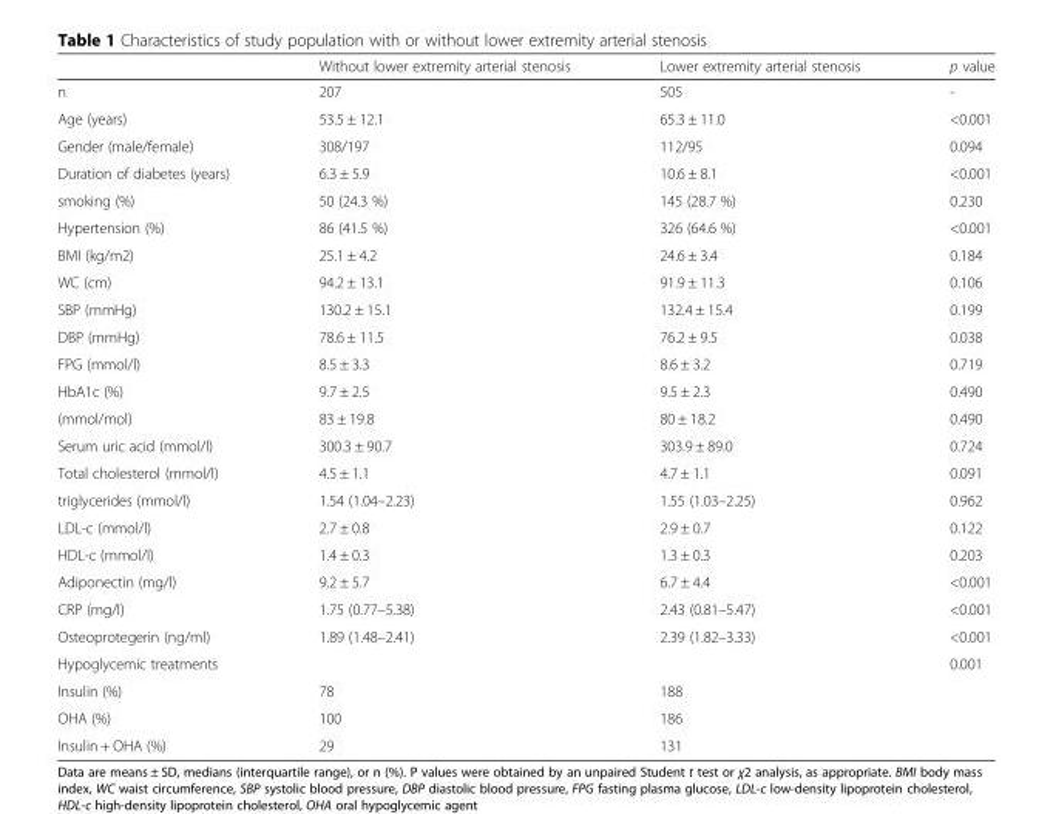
<table><thead><tr><td></td><td>Without lower extremity arterial stenosis</td><td>Lower extremity arterial stenosis</td><td>p value</td></tr></thead><tbody><tr><td>n</td><td>207</td><td>505</td><td>-</td></tr><tr><td>Age (years)</td><td>53.5 ± 12.1</td><td>65.3 ± 11.0</td><td>&lt;0.001</td></tr><tr><td>Gender (male/female)</td><td>308/197</td><td>112/95</td><td>0.094</td></tr><tr><td>Duration of diabetes (years)</td><td>6.3 ± 5.9</td><td>10.6 ± 8.1</td><td>&lt;0.001</td></tr><tr><td>smoking (%)</td><td>50 (24.3 %)</td><td>145 (28.7 %)</td><td>0.230</td></tr><tr><td>Hypertension (%)</td><td>86 (41.5 %)</td><td>326 (64.6 %)</td><td>&lt;0.001</td></tr><tr><td>BMI (kg/m2)</td><td>25.1 ± 4.2</td><td>24.6 ± 3.4</td><td>0.184</td></tr><tr><td>WC (cm)</td><td>94.2 ± 13.1</td><td>91.9 ± 11.3</td><td>0.106</td></tr><tr><td>SBP (mmHg)</td><td>130.2 ± 15.1</td><td>132.4 ± 15.4</td><td>0.199</td></tr><tr><td>DBP (mmHg)</td><td>78.6 ± 11.5</td><td>76.2 ± 9.5</td><td>0.038</td></tr><tr><td>FPG (mmol/l)</td><td>8.5 ± 3.3</td><td>8.6 ± 3.2</td><td>0.719</td></tr><tr><td>HbA1c (%)</td><td>9.7 ± 2.5</td><td>9.5 ± 2.3</td><td>0.490</td></tr><tr><td>(mmol/mol)</td><td>83 ± 19.8</td><td>80 ± 18.2</td><td>0.490</td></tr><tr><td>Serum uric acid (mmol/l)</td><td>300.3 ± 90.7</td><td>303.9 ± 89.0</td><td>0.724</td></tr><tr><td>Total cholesterol (mmol/l)</td><td>4.5 ± 1.1</td><td>4.7 ± 1.1</td><td>0.091</td></tr><tr><td>triglycerides (mmol/l)</td><td>1.54 (1.04–2.23)</td><td>1.55 (1.03–2.25)</td><td>0.962</td></tr><tr><td>LDL-c (mmol/l)</td><td>2.7 ± 0.8</td><td>2.9 ± 0.7</td><td>0.122</td></tr><tr><td>HDL-c (mmol/l)</td><td>1.4 ± 0.3</td><td>1.3 ± 0.3</td><td>0.203</td></tr><tr><td>Adiponectin (mg/l)</td><td>9.2 ± 5.7</td><td>6.7 ± 4.4</td><td>&lt;0.001</td></tr><tr><td>CRP (mg/l)</td><td>1.75 (0.77–5.38)</td><td>2.43 (0.81–5.47)</td><td>&lt;0.001</td></tr><tr><td>Osteoprotegerin (ng/ml)</td><td>1.89 (1.48–2.41)</td><td>2.39 (1.82–3.33)</td><td>&lt;0.001</td></tr><tr><td>Hypoglycemic treatments</td><td></td><td></td><td>0.001</td></tr><tr><td>Insulin (%)</td><td>78</td><td>188</td><td></td></tr><tr><td>OHA (%)</td><td>100</td><td>186</td><td></td></tr><tr><td>Insulin + OHA (%)</td><td>29</td><td>131</td><td></td></tr></tbody></table>